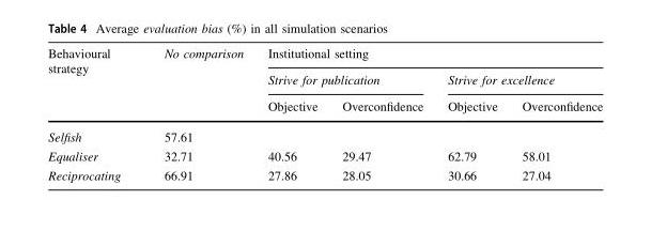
<table><thead><tr><td rowspan="3">Behavioural strategy</td><td rowspan="3">No comparison</td><td colspan="4">Institutional setting</td></tr><tr><td colspan="2">Strive for publication</td><td colspan="2">Strive for excellence</td></tr><tr><td>Objective</td><td>Overconfidence</td><td>Objective</td><td>Overconfidence</td></tr></thead><tbody><tr><td>Selfish</td><td>57.61</td><td></td><td></td><td></td><td></td></tr><tr><td>Equaliser</td><td>32.71</td><td>40.56</td><td>29.47</td><td>62.79</td><td>58.01</td></tr><tr><td>Reciprocating</td><td>66.91</td><td>27.86</td><td>28.05</td><td>30.66</td><td>27.04</td></tr></tbody></table>